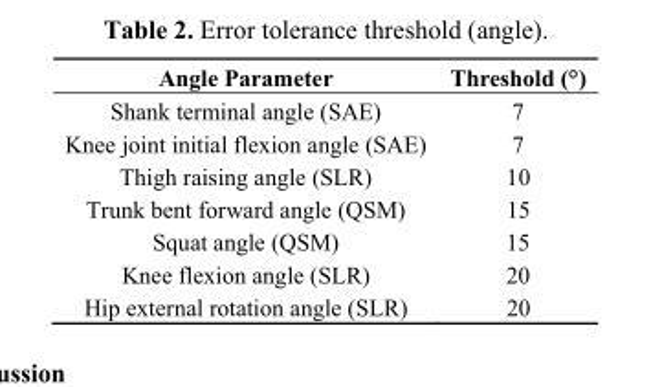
<table><thead><tr><td>Angle Parameter</td><td>Threshold (°)</td></tr></thead><tbody><tr><td>Shank terminal angle (SAE)</td><td>7</td></tr><tr><td>Knee joint initial flexion angle (SAE)</td><td>7</td></tr><tr><td>Thigh raising angle (SLR)</td><td>10</td></tr><tr><td>Trunk bent forward angle (QSM)</td><td>15</td></tr><tr><td>Squat angle (QSM)</td><td>15</td></tr><tr><td>Knee flexion angle (SLR)</td><td>20</td></tr><tr><td>Hip external rotation angle (SLR)</td><td>20</td></tr></tbody></table>